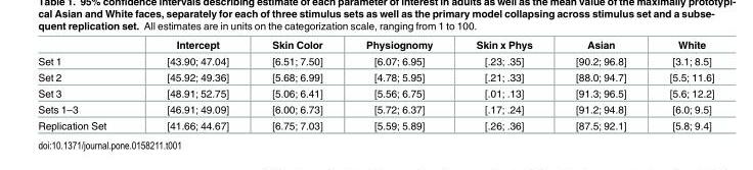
<table><thead><tr><td></td><td>Intercept</td><td>Skin Color</td><td>Physiognomy</td><td>Skin x Phys</td><td>Asian</td><td>White</td></tr></thead><tbody><tr><td>Set 1</td><td>[43.90; 47.04]</td><td>[6.51; 7.50]</td><td>[6.07; 6.95]</td><td>[.23; .35]</td><td>[90.2; 96.8]</td><td>[3.1; 8.5]</td></tr><tr><td>Set 2</td><td>[45.92; 49.36]</td><td>[5.68; 6.99]</td><td>[4.78; 5.95]</td><td>[.21; .33]</td><td>[88.0; 94.7]</td><td>[5.5; 11.6]</td></tr><tr><td>Set 3</td><td>[48.91; 52.75]</td><td>[5.06; 6.41]</td><td>[5.56; 6.75]</td><td>[.01; .13]</td><td>[91.3; 96.5]</td><td>[5.6; 12.2]</td></tr><tr><td>Sets 1–3</td><td>[46.91; 49.09]</td><td>[6.00; 6.73]</td><td>[5.72; 6.37]</td><td>[.17; .24]</td><td>[91.2; 94.8]</td><td>[6.0; 9.5]</td></tr><tr><td>Replication Set</td><td>[41.66; 44.67]</td><td>[6.75; 7.03]</td><td>[5.59; 5.89]</td><td>[.26; .36]</td><td>[87.5; 92.1]</td><td>[5.8; 9.4]</td></tr></tbody></table>